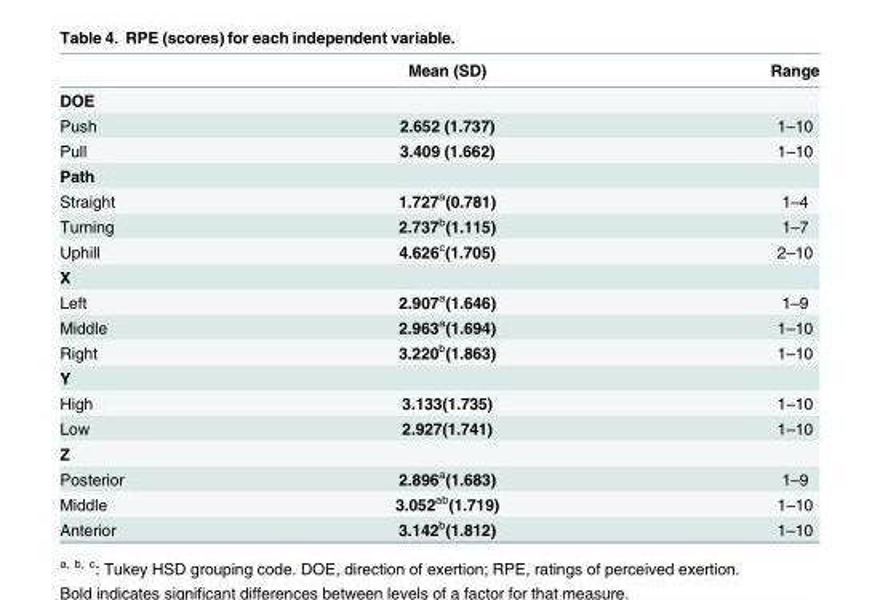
<table><thead><tr><td></td><td>Mean (SD)</td><td>Range</td></tr></thead><tbody><tr><td colspan="3">DOE</td></tr><tr><td>Push</td><td>2.652 (1.737)</td><td>1–10</td></tr><tr><td>Pull</td><td>3.409 (1.662)</td><td>1–10</td></tr><tr><td colspan="3">Path</td></tr><tr><td>Straight</td><td>1.727<sup>a</sup>(0.781)</td><td>1–4</td></tr><tr><td>Turning</td><td>2.737<sup>b</sup>(1.115)</td><td>1–7</td></tr><tr><td>Uphill</td><td>4.626<sup>c</sup>(1.705)</td><td>2–10</td></tr><tr><td colspan="3">X</td></tr><tr><td>Left</td><td>2.907<sup>a</sup>(1.646)</td><td>1–9</td></tr><tr><td>Middle</td><td>2.963<sup>a</sup>(1.694)</td><td>1–10</td></tr><tr><td>Right</td><td>3.220<sup>b</sup>(1.863)</td><td>1–10</td></tr><tr><td colspan="3">Y</td></tr><tr><td>High</td><td>3.133(1.735)</td><td>1–10</td></tr><tr><td>Low</td><td>2.927(1.741)</td><td>1–10</td></tr><tr><td colspan="3">Z</td></tr><tr><td>Posterior</td><td>2.896<sup>a</sup>(1.683)</td><td>1–9</td></tr><tr><td>Middle</td><td>3.052<sup>ab</sup>(1.719)</td><td>1–10</td></tr><tr><td>Anterior</td><td>3.142<sup>b</sup>(1.812)</td><td>1–10</td></tr></tbody></table>